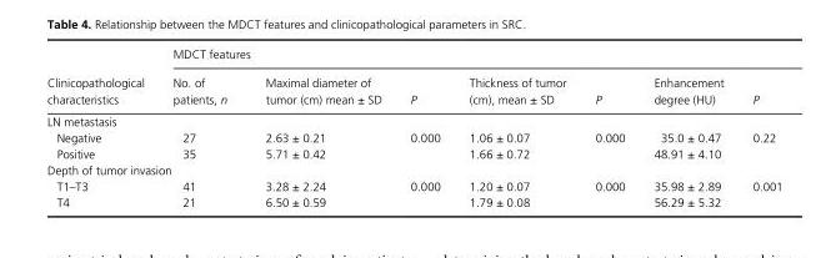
<table><thead><tr><td rowspan="2">Clinicopathological characteristics</td><td colspan="7">MDCT features</td></tr><tr><td>No. of patients, n</td><td>Maximal diameter of tumor (cm) mean ± SD</td><td>P</td><td>Thickness of tumor (cm), mean ± SD</td><td>P</td><td>Enhancement degree (HU)</td><td>P</td></tr></thead><tbody><tr><td colspan="8">LN metastasis</td></tr><tr><td>Negative</td><td>27</td><td>2.63 ± 0.21</td><td rowspan="2">0.000</td><td>1.06 ± 0.07</td><td rowspan="2">0.000</td><td>35.0 ± 0.47</td><td rowspan="2">0.22</td></tr><tr><td>Positive</td><td>35</td><td>5.71 ± 0.42</td><td>1.66 ± 0.72</td><td>48.91 ± 4.10</td></tr><tr><td colspan="8">Depth of tumor invasion</td></tr><tr><td>T1–T3</td><td>41</td><td>3.28 ± 2.24</td><td rowspan="2">0.000</td><td>1.20 ± 0.07</td><td rowspan="2">0.000</td><td>35.98 ± 2.89</td><td rowspan="2">0.001</td></tr><tr><td>T4</td><td>21</td><td>6.50 ± 0.59</td><td>1.79 ± 0.08</td><td>56.29 ± 5.32</td></tr></tbody></table>